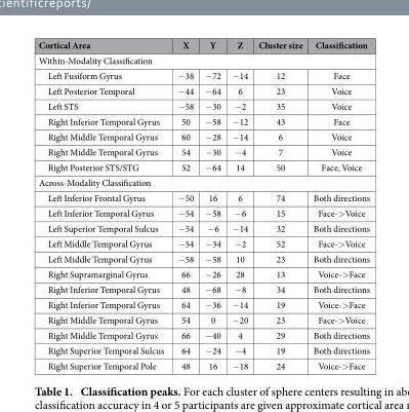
<table><thead><tr><td>Cortical Area</td><td>X</td><td>Y</td><td>Z</td><td>Cluster size</td><td>Classification</td></tr></thead><tbody><tr><td colspan="6">Within-Modality Classification</td></tr><tr><td>Left Fusiform Gyrus</td><td>− 38</td><td>− 72</td><td>− 14</td><td>12</td><td>Face</td></tr><tr><td>Left Posterior Temporal</td><td>− 44</td><td>− 64</td><td>6</td><td>23</td><td>Voice</td></tr><tr><td>Left STS</td><td>− 58</td><td>− 30</td><td>− 2</td><td>35</td><td>Voice</td></tr><tr><td>Right Inferior Temporal Gyrus</td><td>50</td><td>− 58</td><td>− 12</td><td>43</td><td>Face</td></tr><tr><td>Right Middle Temporal Gyrus</td><td>60</td><td>− 28</td><td>− 14</td><td>6</td><td>Voice</td></tr><tr><td>Right Middle Temporal Gyrus</td><td>54</td><td>− 30</td><td>− 4</td><td>7</td><td>Voice</td></tr><tr><td>Right Posterior STS/STG</td><td>52</td><td>− 64</td><td>14</td><td>50</td><td>Face, Voice</td></tr><tr><td colspan="6">Across-Modality Classification</td></tr><tr><td>Left Inferior Frontal Gyrus</td><td>− 50</td><td>16</td><td>6</td><td>74</td><td>Both directions</td></tr><tr><td>Left Inferior Temporal Gyrus</td><td>− 54</td><td>− 58</td><td>− 6</td><td>15</td><td>Face-&gt; Voice</td></tr><tr><td>Left Superior Temporal Sulcus</td><td>− 54</td><td>− 6</td><td>− 14</td><td>32</td><td>Both directions</td></tr><tr><td>Left Middle Temporal Gyrus</td><td>− 54</td><td>− 34</td><td>− 2</td><td>52</td><td>Face-&gt; Voice</td></tr><tr><td>Left Middle Temporal Gyrus</td><td>− 58</td><td>− 58</td><td>10</td><td>23</td><td>Both directions</td></tr><tr><td>Right Supramarginal Gyrus</td><td>66</td><td>− 26</td><td>28</td><td>13</td><td>Voice-&gt; Face</td></tr><tr><td>Right Inferior Temporal Gyrus</td><td>48</td><td>− 68</td><td>− 8</td><td>34</td><td>Both directions</td></tr><tr><td>Right Inferior Temporal Gyrus</td><td>64</td><td>− 36</td><td>− 14</td><td>19</td><td>Voice-&gt; Face</td></tr><tr><td>Right Middle Temporal Gyrus</td><td>54</td><td>0</td><td>− 20</td><td>23</td><td>Face-&gt; Voice</td></tr><tr><td>Right Middle Temporal Gyrus</td><td>66</td><td>− 40</td><td>4</td><td>29</td><td>Both directions</td></tr><tr><td>Right Superior Temporal Sulcus</td><td>64</td><td>− 24</td><td>− 4</td><td>19</td><td>Both directions</td></tr><tr><td>Right Superior Temporal Pole</td><td>48</td><td>16</td><td>− 18</td><td>24</td><td>Voice-&gt; Face</td></tr></tbody></table>